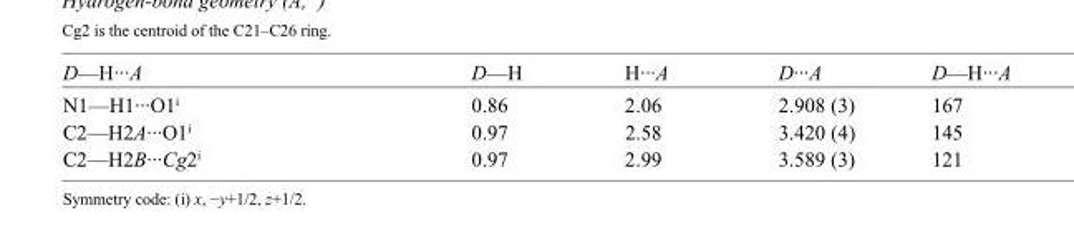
<table><tbody><tr><td>D—H···A</td><td>D—H</td><td>H···A</td><td>D···A</td><td>D—H···A</td></tr><tr><td>N1—H1···O1<sup>i</sup></td><td>0.86</td><td>2.06</td><td>2.908 (3)</td><td>167</td></tr><tr><td>C2—H2A···O1<sup>i</sup></td><td>0.97</td><td>2.58</td><td>3.420 (4)</td><td>145</td></tr><tr><td>C2—H2B···Cg2<sup>i</sup></td><td>0.97</td><td>2.99</td><td>3.589 (3)</td><td>121</td></tr></tbody></table>